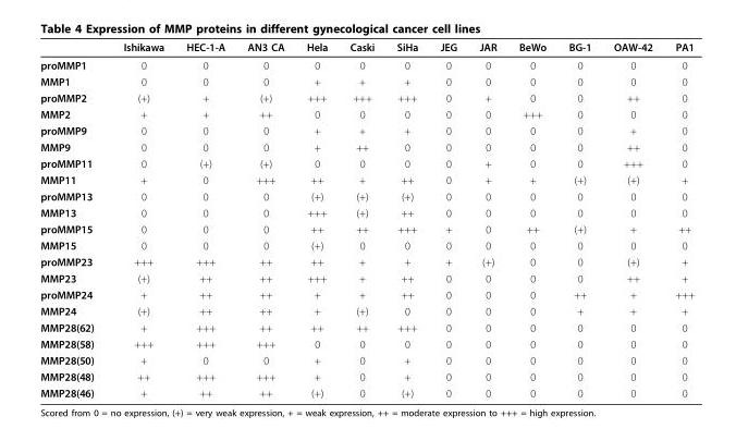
<table><thead><tr><td></td><td>Ishikawa</td><td>HEC-1-A</td><td>AN3 CA</td><td>Hela</td><td>Caski</td><td>SiHa</td><td>JEG</td><td>JAR</td><td>BeWo</td><td>BG-1</td><td>OAW-42</td><td>PA1</td></tr></thead><tbody><tr><td>proMMP1</td><td>0</td><td>0</td><td>0</td><td>0</td><td>0</td><td>0</td><td>0</td><td>0</td><td>0</td><td>0</td><td>0</td><td>0</td></tr><tr><td>MMP1</td><td>0</td><td>0</td><td>0</td><td>+</td><td>+</td><td>+</td><td>0</td><td>0</td><td>0</td><td>0</td><td>0</td><td>0</td></tr><tr><td>proMMP2</td><td>(+)</td><td>+</td><td>(+)</td><td>+++</td><td>+++</td><td>+++</td><td>0</td><td>+</td><td>0</td><td>0</td><td>++</td><td>0</td></tr><tr><td>MMP2</td><td>+</td><td>+</td><td>++</td><td>0</td><td>0</td><td>0</td><td>0</td><td>0</td><td>+++</td><td>0</td><td>0</td><td>0</td></tr><tr><td>proMMP9</td><td>0</td><td>0</td><td>0</td><td>+</td><td>+</td><td>+</td><td>0</td><td>0</td><td>0</td><td>0</td><td>+</td><td>0</td></tr><tr><td>MMP9</td><td>0</td><td>0</td><td>0</td><td>+</td><td>++</td><td>0</td><td>0</td><td>0</td><td>0</td><td>0</td><td>++</td><td>0</td></tr><tr><td>proMMP11</td><td>0</td><td>(+)</td><td>(+)</td><td>0</td><td>0</td><td>0</td><td>0</td><td>+</td><td>0</td><td>0</td><td>+++</td><td>0</td></tr><tr><td>MMP11</td><td>+</td><td>0</td><td>+++</td><td>++</td><td>+</td><td>++</td><td>0</td><td>+</td><td>+</td><td>(+)</td><td>(+)</td><td>+</td></tr><tr><td>proMMP13</td><td>0</td><td>0</td><td>0</td><td>(+)</td><td>(+)</td><td>(+)</td><td>0</td><td>0</td><td>0</td><td>0</td><td>0</td><td>0</td></tr><tr><td>MMP13</td><td>0</td><td>0</td><td>0</td><td>+++</td><td>(+)</td><td>++</td><td>0</td><td>0</td><td>0</td><td>0</td><td>0</td><td>0</td></tr><tr><td>proMMP15</td><td>0</td><td>0</td><td>0</td><td>++</td><td>++</td><td>+++</td><td>+</td><td>0</td><td>++</td><td>(+)</td><td>+</td><td>++</td></tr><tr><td>MMP15</td><td>0</td><td>0</td><td>0</td><td>(+)</td><td>0</td><td>0</td><td>0</td><td>0</td><td>0</td><td>0</td><td>0</td><td>0</td></tr><tr><td>proMMP23</td><td>+++</td><td>+++</td><td>++</td><td>++</td><td>+</td><td>+</td><td>+</td><td>(+)</td><td>0</td><td>0</td><td>(+)</td><td>+</td></tr><tr><td>MMP23</td><td>(+)</td><td>++</td><td>++</td><td>+++</td><td>+</td><td>++</td><td>0</td><td>0</td><td>0</td><td>0</td><td>++</td><td>+</td></tr><tr><td>proMMP24</td><td>+</td><td>++</td><td>++</td><td>+</td><td>+</td><td>++</td><td>0</td><td>0</td><td>0</td><td>++</td><td>+</td><td>+++</td></tr><tr><td>MMP24</td><td>(+)</td><td>++</td><td>++</td><td>+</td><td>(+)</td><td>0</td><td>0</td><td>0</td><td>0</td><td>+</td><td>+</td><td>+</td></tr><tr><td>MMP28(62)</td><td>+</td><td>+++</td><td>++</td><td>++</td><td>++</td><td>+++</td><td>0</td><td>0</td><td>0</td><td>0</td><td>0</td><td>0</td></tr><tr><td>MMP28(58)</td><td>+++</td><td>+++</td><td>+++</td><td>0</td><td>0</td><td>0</td><td>0</td><td>0</td><td>0</td><td>0</td><td>0</td><td>0</td></tr><tr><td>MMP28(50)</td><td>+</td><td>0</td><td>0</td><td>+</td><td>0</td><td>+</td><td>0</td><td>0</td><td>0</td><td>0</td><td>0</td><td>0</td></tr><tr><td>MMP28(48)</td><td>++</td><td>+++</td><td>+++</td><td>+</td><td>0</td><td>+</td><td>0</td><td>0</td><td>0</td><td>0</td><td>0</td><td>0</td></tr><tr><td>MMP28(46)</td><td>+</td><td>++</td><td>++</td><td>(+)</td><td>0</td><td>(+)</td><td>0</td><td>0</td><td>0</td><td>0</td><td>0</td><td>0</td></tr></tbody></table>